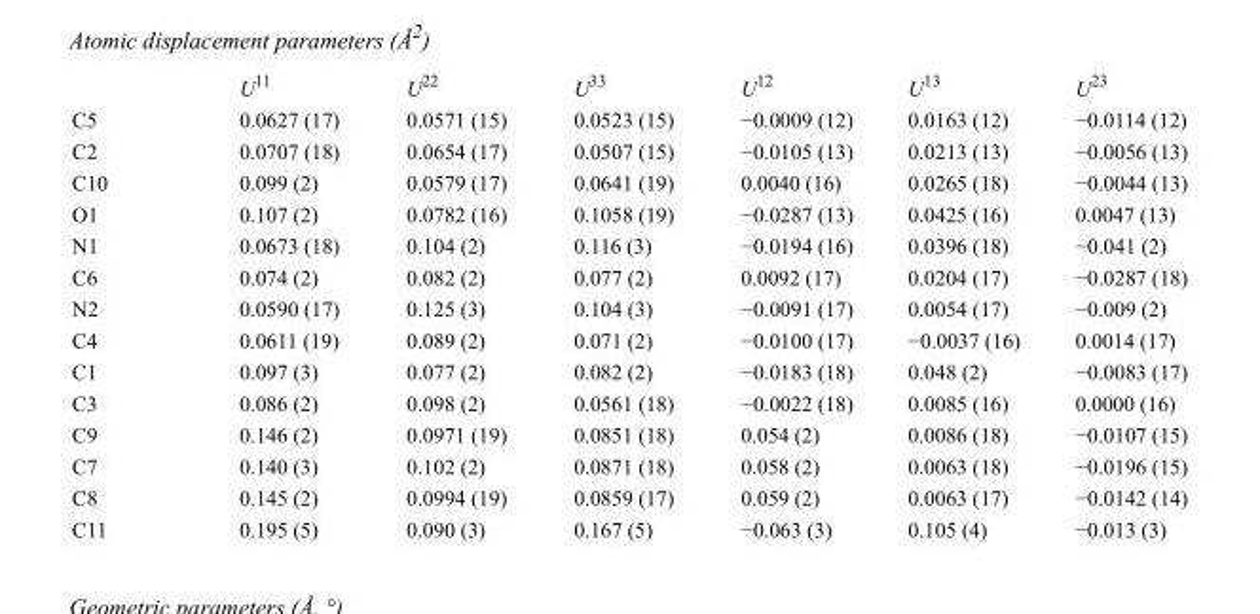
<table><thead><tr><td></td><td>U<sup>11</sup></td><td>U<sup>22</sup></td><td>U<sup>33</sup></td><td>U<sup>12</sup></td><td>U<sup>13</sup></td><td>U<sup>23</sup></td></tr></thead><tbody><tr><td>C5</td><td>0.0627 (17)</td><td>0.0571 (15)</td><td>0.0523 (15)</td><td>−0.0009 (12)</td><td>0.0163 (12)</td><td>−0.0114 (12)</td></tr><tr><td>C2</td><td>0.0707 (18)</td><td>0.0654 (17)</td><td>0.0507 (15)</td><td>−0.0105 (13)</td><td>0.0213 (13)</td><td>−0.0056 (13)</td></tr><tr><td>C10</td><td>0.099 (2)</td><td>0.0579 (17)</td><td>0.0641 (19)</td><td>0.0040 (16)</td><td>0.0265 (18)</td><td>−0.0044 (13)</td></tr><tr><td>O1</td><td>0.107 (2)</td><td>0.0782 (16)</td><td>0.1058 (19)</td><td>−0.0287 (13)</td><td>0.0425 (16)</td><td>0.0047 (13)</td></tr><tr><td>N1</td><td>0.0673 (18)</td><td>0.104 (2)</td><td>0.116 (3)</td><td>−0.0194 (16)</td><td>0.0396 (18)</td><td>−0.041 (2)</td></tr><tr><td>C6</td><td>0.074 (2)</td><td>0.082 (2)</td><td>0.077 (2)</td><td>0.0092 (17)</td><td>0.0204 (17)</td><td>−0.0287 (18)</td></tr><tr><td>N2</td><td>0.0590 (17)</td><td>0.125 (3)</td><td>0.104 (3)</td><td>−0.0091 (17)</td><td>0.0054 (17)</td><td>−0.009 (2)</td></tr><tr><td>C4</td><td>0.0611 (19)</td><td>0.089 (2)</td><td>0.071 (2)</td><td>−0.0100 (17)</td><td>−0.0037 (16)</td><td>0.0014 (17)</td></tr><tr><td>C1</td><td>0.097 (3)</td><td>0.077 (2)</td><td>0.082 (2)</td><td>−0.0183 (18)</td><td>0.048 (2)</td><td>−0.0083 (17)</td></tr><tr><td>C3</td><td>0.086 (2)</td><td>0.098 (2)</td><td>0.0561 (18)</td><td>−0.0022 (18)</td><td>0.0085 (16)</td><td>0.0000 (16)</td></tr><tr><td>C9</td><td>0.146 (2)</td><td>0.0971 (19)</td><td>0.0851 (18)</td><td>0.054 (2)</td><td>0.0086 (18)</td><td>−0.0107 (15)</td></tr><tr><td>C7</td><td>0.140 (3)</td><td>0.102 (2)</td><td>0.0871 (18)</td><td>0.058 (2)</td><td>0.0063 (18)</td><td>−0.0196 (15)</td></tr><tr><td>C8</td><td>0.145 (2)</td><td>0.0994 (19)</td><td>0.0859 (17)</td><td>0.059 (2)</td><td>0.0063 (17)</td><td>−0.0142 (14)</td></tr><tr><td>C11</td><td>0.195 (5)</td><td>0.090 (3)</td><td>0.167 (5)</td><td>−0.063 (3)</td><td>0.105 (4)</td><td>−0.013 (3)</td></tr></tbody></table>